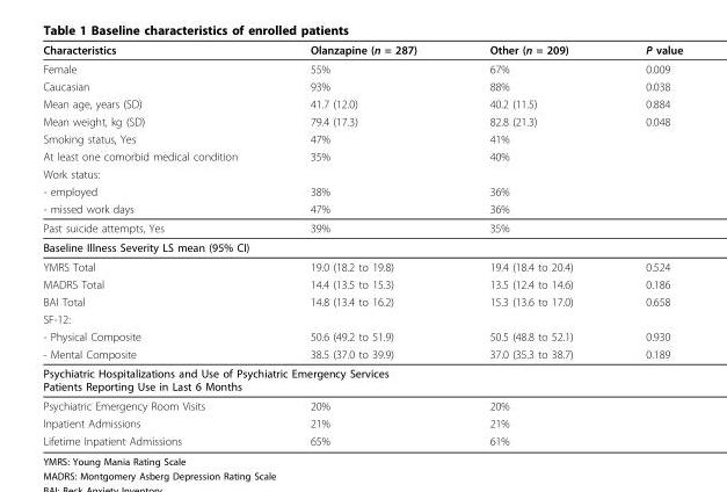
<table><thead><tr><td>Characteristics</td><td>Olanzapine (n = 287)</td><td>Other (n = 209)</td><td>P value</td></tr></thead><tbody><tr><td>Female</td><td>55%</td><td>67%</td><td>0.009</td></tr><tr><td>Caucasian</td><td>93%</td><td>88%</td><td>0.038</td></tr><tr><td>Mean age, years (SD)</td><td>41.7 (12.0)</td><td>40.2 (11.5)</td><td>0.884</td></tr><tr><td>Mean weight, kg (SD)</td><td>79.4 (17.3)</td><td>82.8 (21.3)</td><td>0.048</td></tr><tr><td>Smoking status, Yes</td><td>47%</td><td>41%</td><td></td></tr><tr><td>At least one comorbid medical condition</td><td>35%</td><td>40%</td><td></td></tr><tr><td colspan="4">Work status:</td></tr><tr><td>- employed</td><td>38%</td><td>36%</td><td></td></tr><tr><td>- missed work days</td><td>47%</td><td>36%</td><td></td></tr><tr><td>Past suicide attempts, Yes</td><td>39%</td><td>35%</td><td></td></tr><tr><td colspan="4">Baseline Illness Severity LS mean (95% CI)</td></tr><tr><td>YMRS Total</td><td>19.0 (18.2 to 19.8)</td><td>19.4 (18.4 to 20.4)</td><td>0.524</td></tr><tr><td>MADRS Total</td><td>14.4 (13.5 to 15.3)</td><td>13.5 (12.4 to 14.6)</td><td>0.186</td></tr><tr><td>BAI Total</td><td>14.8 (13.4 to 16.2)</td><td>15.3 (13.6 to 17.0)</td><td>0.658</td></tr><tr><td colspan="4">SF-12:</td></tr><tr><td>- Physical Composite</td><td>50.6 (49.2 to 51.9)</td><td>50.5 (48.8 to 52.1)</td><td>0.930</td></tr><tr><td>- Mental Composite</td><td>38.5 (37.0 to 39.9)</td><td>37.0 (35.3 to 38.7)</td><td>0.189</td></tr><tr><td colspan="4">Psychiatric Hospitalizations and Use of Psychiatric Emergency Services Patients Reporting Use in Last 6 Months</td></tr><tr><td>Psychiatric Emergency Room Visits</td><td>20%</td><td>20%</td><td></td></tr><tr><td>Inpatient Admissions</td><td>21%</td><td>21%</td><td></td></tr><tr><td>Lifetime Inpatient Admissions</td><td>65%</td><td>61%</td><td></td></tr></tbody></table>